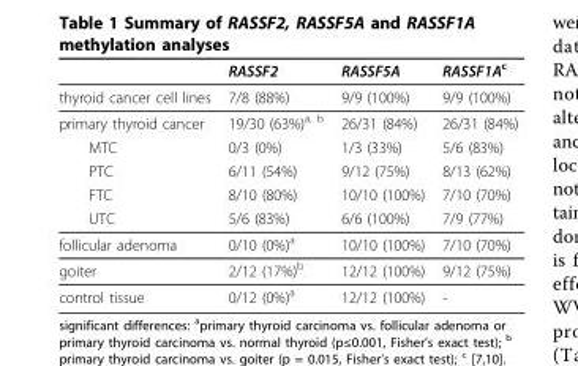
<table><thead><tr><td></td><td>RASSF2</td><td>RASSF5A</td><td>RASSF1A<sup>c</sup></td></tr></thead><tbody><tr><td>thyroid cancer cell lines</td><td>7/8 (88%)</td><td>9/9 (100%)</td><td>9/9 (100%)</td></tr><tr><td>primary thyroid cancer</td><td>19/30 (63%)<sup>a, b</sup></td><td>26/31 (84%)</td><td>26/31 (84%)</td></tr><tr><td>MTC</td><td>0/3 (0%)</td><td>1/3 (33%)</td><td>5/6 (83%)</td></tr><tr><td>PTC</td><td>6/11 (54%)</td><td>9/12 (75%)</td><td>8/13 (62%)</td></tr><tr><td>FTC</td><td>8/10 (80%)</td><td>10/10 (100%)</td><td>7/10 (70%)</td></tr><tr><td>UTC</td><td>5/6 (83%)</td><td>6/6 (100%)</td><td>7/9 (77%)</td></tr><tr><td>follicular adenoma</td><td>0/10 (0%)<sup>a</sup></td><td>10/10 (100%)</td><td>7/10 (70%)</td></tr><tr><td>goiter</td><td>2/12 (17%)<sup>b</sup></td><td>12/12 (100%)</td><td>9/12 (75%)</td></tr><tr><td>control tissue</td><td>0/12 (0%)<sup>a</sup></td><td>12/12 (100%)</td><td>-</td></tr></tbody></table>